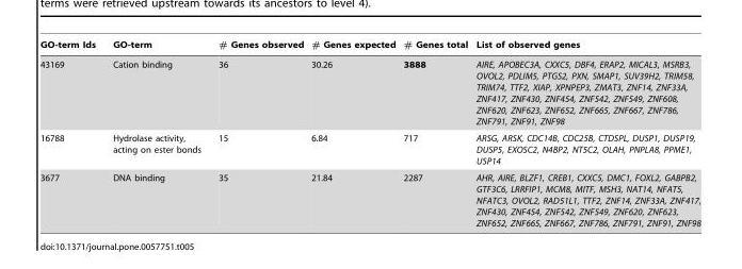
<table><thead><tr><td>GO-term Ids</td><td>GO-term</td><td># Genes observed</td><td># Genes expected</td><td># Genes total</td><td>List of observed genes</td></tr></thead><tbody><tr><td>43169</td><td>Cation binding</td><td>36</td><td>30.26</td><td>3888</td><td>AIRE, APOBEC3A, CXXC5, DBF4, ERAP2, MICAL3, MSRB3, OVOL2, PDLIM5, PTGS2, PXN, SMAP1, SUV39H2, TRIM58, TRIM74, TTF2, XIAP, XPNPEP3, ZMAT3, ZNF14, ZNF33A, ZNF417, ZNF430, ZNF454, ZNF542, ZNF549, ZNF608, ZNF620, ZNF623, ZNF652, ZNF665, ZNF667, ZNF786, ZNF791, ZNF91, ZNF98</td></tr><tr><td>16788</td><td>Hydrolase activity, acting on ester bonds</td><td>15</td><td>6.84</td><td>717</td><td>ARSG, ARSK, CDC14B, CDC25B, CTDSPL, DUSP1, DUSP19, DUSP5, EXOSC2, N4BP2, NT5C2, OLAH, PNPLA8, PPME1, USP14</td></tr><tr><td>3677</td><td>DNA binding</td><td>35</td><td>21.84</td><td>2287</td><td>AHR, AIRE, BLZF1, CREB1, CXXC5, DMC1, FOXL2, GABPB2, GTF3C6, LRRFIP1, MCM8, MITF, MSH3, NAT14, NFAT5, NFATC3, OVOL2, RAD51L1, TTF2, ZNF14, ZNF33A, ZNF417, ZNF430, ZNF454, ZNF542, ZNF549, ZNF620, ZNF623, ZNF652, ZNF665, ZNF667, ZNF786, ZNF791, ZNF91, ZNF98</td></tr></tbody></table>